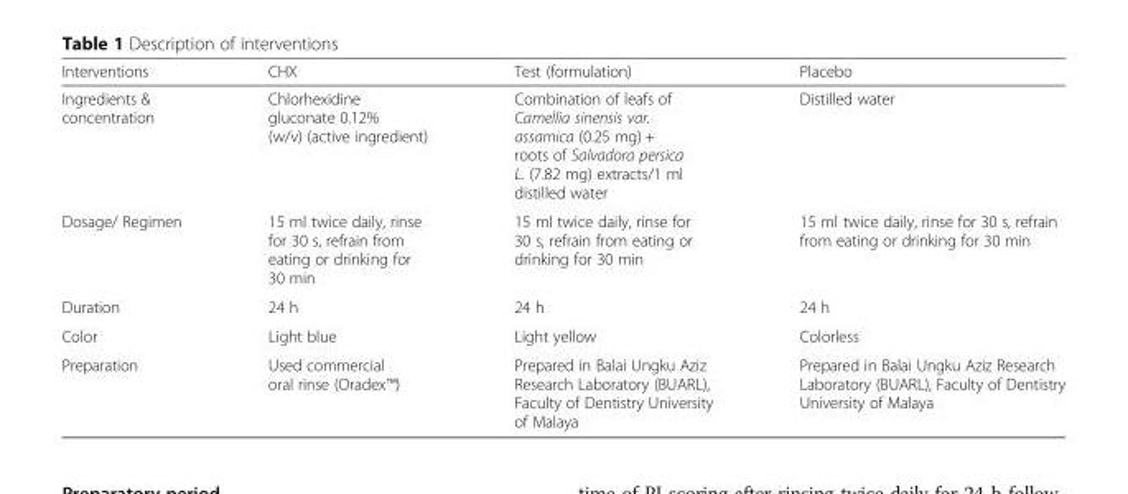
<table><thead><tr><td>Interventions</td><td>CHX</td><td>Test (formulation)</td><td>Placebo</td></tr></thead><tbody><tr><td>Ingredients &amp; concentration</td><td>Chlorhexidine gluconate 0.12% (w/v) (active ingredient)</td><td>Combination of leafs of Camellia sinensis var. assamica (0.25 mg) + roots of Salvadora persica L. (7.82 mg) extracts/1 ml distilled water</td><td>Distilled water</td></tr><tr><td>Dosage/ Regimen</td><td>15 ml twice daily, rinse for 30 s, refrain from eating or drinking for 30 min</td><td>15 ml twice daily, rinse for 30 s, refrain from eating or drinking for 30 min</td><td>15 ml twice daily, rinse for 30 s, refrain from eating or drinking for 30 min</td></tr><tr><td>Duration</td><td>24 h</td><td>24 h</td><td>24 h</td></tr><tr><td>Color</td><td>Light blue</td><td>Light yellow</td><td>Colorless</td></tr><tr><td>Preparation</td><td>Used commercial oral rinse (Oradex™)</td><td>Prepared in Balai Ungku Aziz Research Laboratory (BUARL), Faculty of Dentistry University of Malaya</td><td>Prepared in Balai Ungku Aziz Research Laboratory (BUARL), Faculty of Dentistry University of Malaya</td></tr></tbody></table>